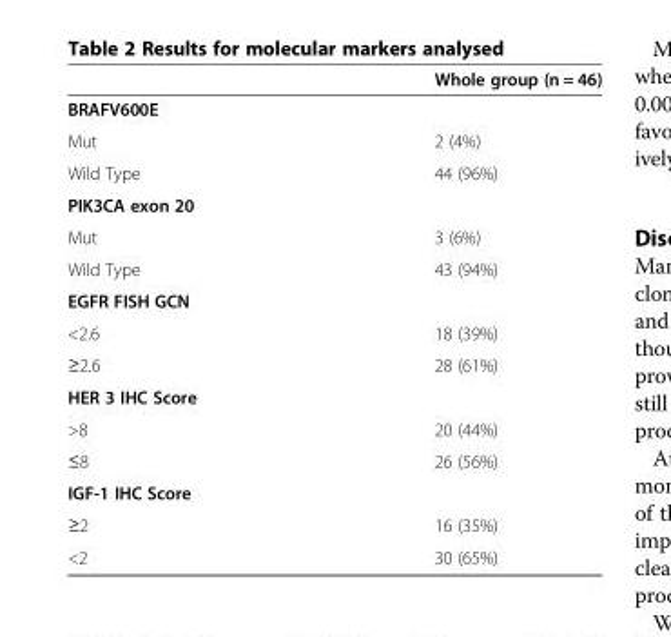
<table><thead><tr><td></td><td>Whole group (n = 46)</td></tr></thead><tbody><tr><td colspan="2">BRAFV600E</td></tr><tr><td>Mut</td><td>2 (4%)</td></tr><tr><td>Wild Type</td><td>44 (96%)</td></tr><tr><td colspan="2">PIK3CA exon 20</td></tr><tr><td>Mut</td><td>3 (6%)</td></tr><tr><td>Wild Type</td><td>43 (94%)</td></tr><tr><td colspan="2">EGFR FISH GCN</td></tr><tr><td>&lt;2.6</td><td>18 (39%)</td></tr><tr><td>≥2.6</td><td>28 (61%)</td></tr><tr><td colspan="2">HER 3 IHC Score</td></tr><tr><td>&gt;8</td><td>20 (44%)</td></tr><tr><td>≤8</td><td>26 (56%)</td></tr><tr><td colspan="2">IGF-1 IHC Score</td></tr><tr><td>≥2</td><td>16 (35%)</td></tr><tr><td>&lt;2</td><td>30 (65%)</td></tr></tbody></table>